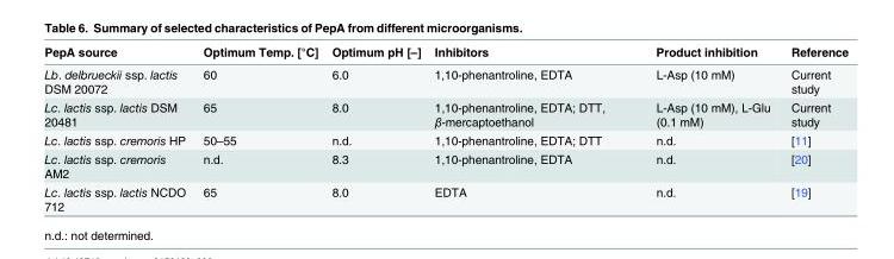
<table><thead><tr><td>PepA source</td><td>Optimum Temp. [°C]</td><td>Optimum pH [–]</td><td>Inhibitors</td><td>Product inhibition</td><td>Reference</td></tr></thead><tbody><tr><td>Lb. delbrueckii ssp. lactis DSM 20072</td><td>60</td><td>6.0</td><td>1,10-phenantroline, EDTA</td><td>L-Asp (10 mM)</td><td>Current study</td></tr><tr><td>Lc. lactis ssp. lactis DSM 20481</td><td>65</td><td>8.0</td><td>1,10-phenantroline, EDTA; DTT, β-mercaptoethanol</td><td>L-Asp (10 mM), L-Glu (0.1 mM)</td><td>Current study</td></tr><tr><td>Lc. lactis ssp. cremoris HP</td><td>50–55</td><td>n.d.</td><td>1,10-phenantroline, EDTA; DTT</td><td>n.d.</td><td>[11]</td></tr><tr><td>Lc. lactis ssp. cremoris AM2</td><td>n.d.</td><td>8.3</td><td>1,10-phenantroline, EDTA</td><td>n.d.</td><td>[20]</td></tr><tr><td>Lc. lactis ssp. lactis NCDO 712</td><td>65</td><td>8.0</td><td>EDTA</td><td>n.d.</td><td>[19]</td></tr></tbody></table>